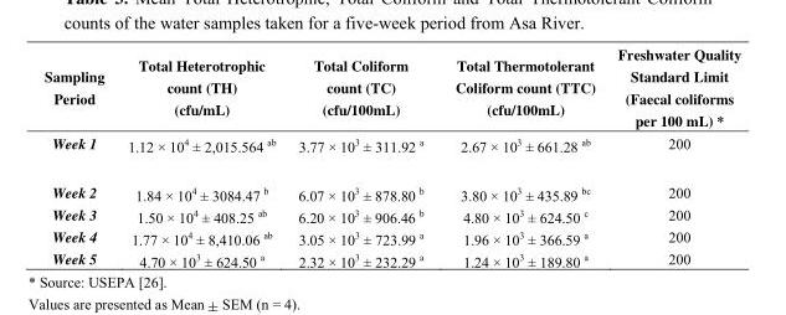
<table><thead><tr><td>Sampling Period</td><td>Total Heterotrophic count (TH) (cfu/mL)</td><td>Total Coliform count (TC) (cfu/100mL)</td><td>Total Thermotolerant Coliform count (TTC) (cfu/100mL)</td><td>Freshwater Quality Standard Limit (Faecal coliforms per 100 mL) *</td></tr></thead><tbody><tr><td>Week 1</td><td>1.12 × 10<sup>4</sup> ± 2,015.564 <sup>ab</sup></td><td>3.77 × 10<sup>3</sup> ± 311.92 <sup>a</sup></td><td>2.67 × 10<sup>3</sup> ± 661.28 <sup>ab</sup></td><td>200</td></tr><tr><td>Week 2</td><td>1.84 × 10<sup>4</sup> ± 3084.47 <sup>b</sup></td><td>6.07 × 10<sup>3</sup> ± 878.80 <sup>b</sup></td><td>3.80 × 10<sup>3</sup> ± 435.89 <sup>bc</sup></td><td>200</td></tr><tr><td>Week 3</td><td>1.50 × 10<sup>4</sup> ± 408.25 <sup>ab</sup></td><td>6.20 × 10<sup>3</sup> ± 906.46 <sup>b</sup></td><td>4.80 × 10<sup>3</sup> ± 624.50 <sup>c</sup></td><td>200</td></tr><tr><td>Week 4</td><td>1.77 × 10<sup>4</sup> ± 8,410.06 <sup>ab</sup></td><td>3.05 × 10<sup>3</sup> ± 723.99 <sup>a</sup></td><td>1.96 × 10<sup>3</sup> ± 366.59 <sup>a</sup></td><td>200</td></tr><tr><td>Week 5</td><td>4.70 × 10<sup>3</sup> ± 624.50 <sup>a</sup></td><td>2.32 × 10<sup>3</sup> ± 232.29 <sup>a</sup></td><td>1.24 × 10<sup>3</sup> ± 189.80 <sup>a</sup></td><td>200</td></tr></tbody></table>